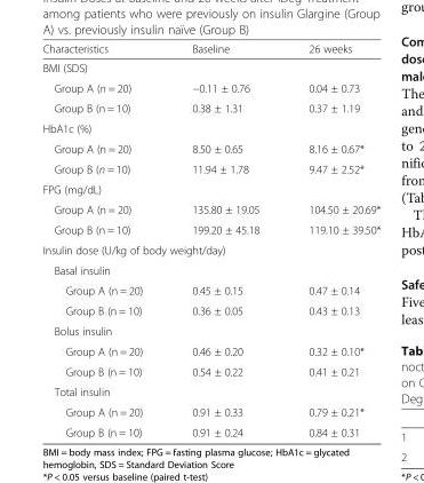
<table><thead><tr><td>Characteristics</td><td>Baseline</td><td>26 weeks</td></tr></thead><tbody><tr><td colspan="3">BMI (SDS)</td></tr><tr><td>Group A (n = 20)</td><td>−0.11 ± 0.76</td><td>0.04 ± 0.73</td></tr><tr><td>Group B (n = 10)</td><td>0.38 ± 1.31</td><td>0.37 ± 1.19</td></tr><tr><td colspan="3">HbA1c (%)</td></tr><tr><td>Group A (n = 20)</td><td>8.50 ± 0.65</td><td>8.16 ± 0.67*</td></tr><tr><td>Group B (n = 10)</td><td>11.94 ± 1.78</td><td>9.47 ± 2.52*</td></tr><tr><td colspan="3">FPG (mg/dL)</td></tr><tr><td>Group A (n = 20)</td><td>135.80 ± 19.05</td><td>104.50 ± 20.69*</td></tr><tr><td>Group B (n = 10)</td><td>199.20 ± 45.18</td><td>119.10 ± 39.50*</td></tr><tr><td colspan="3">Insulin dose (U/kg of body weight/day)</td></tr><tr><td colspan="3">Basal insulin</td></tr><tr><td>Group A (n = 20)</td><td>0.45 ± 0.15</td><td>0.47 ± 0.14</td></tr><tr><td>Group B (n = 10)</td><td>0.36 ± 0.05</td><td>0.43 ± 0.13</td></tr><tr><td colspan="3">Bolus insulin</td></tr><tr><td>Group A (n = 20)</td><td>0.46 ± 0.20</td><td>0.32 ± 0.10*</td></tr><tr><td>Group B (n = 10)</td><td>0.54 ± 0.22</td><td>0.41 ± 0.21</td></tr><tr><td colspan="3">Total insulin</td></tr><tr><td>Group A (n = 20)</td><td>0.91 ± 0.33</td><td>0.79 ± 0.21*</td></tr><tr><td>Group B (n = 10)</td><td>0.91 ± 0.24</td><td>0.84 ± 0.31</td></tr></tbody></table>